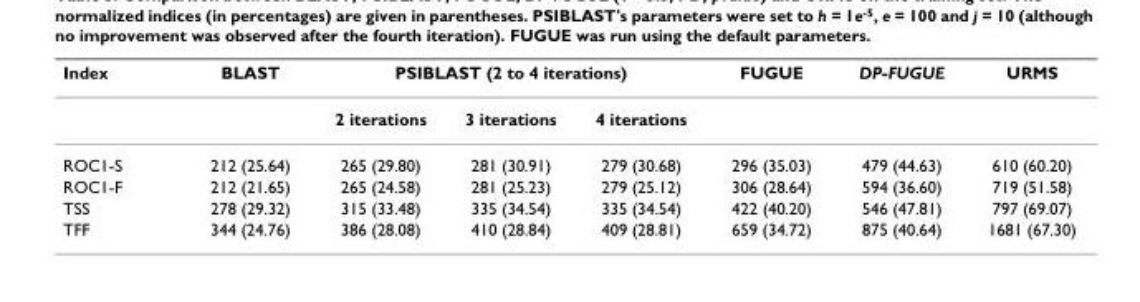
<table><thead><tr><td rowspan="2">Index</td><td rowspan="2">BLAST</td><td colspan="3">PSIBLAST (2 to 4 iterations)</td><td rowspan="2">FUGUE</td><td rowspan="2">DP-FUGUE</td><td rowspan="2">URMS</td></tr><tr><td>2 iterations</td><td>3 iterations</td><td>4 iterations</td></tr></thead><tbody><tr><td>ROC1-S</td><td>212 (25.64)</td><td>265 (29.80)</td><td>281 (30.91)</td><td>279 (30.68)</td><td>296 (35.03)</td><td>479 (44.63)</td><td>610 (60.20)</td></tr><tr><td>ROC1-F</td><td>212 (21.65)</td><td>265 (24.58)</td><td>281 (25.23)</td><td>279 (25.12)</td><td>306 (28.64)</td><td>594 (36.60)</td><td>719 (51.58)</td></tr><tr><td>TSS</td><td>278 (29.32)</td><td>315 (33.48)</td><td>335 (34.54)</td><td>335 (34.54)</td><td>422 (40.20)</td><td>546 (47.81)</td><td>797 (69.07)</td></tr><tr><td>TFF</td><td>344 (24.76)</td><td>386 (28.08)</td><td>410 (28.84)</td><td>409 (28.81)</td><td>659 (34.72)</td><td>875 (40.64)</td><td>1681 (67.30)</td></tr></tbody></table>